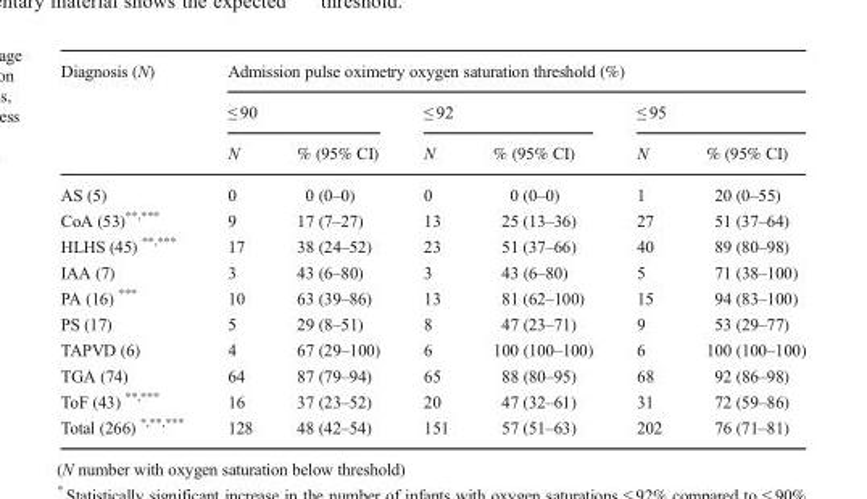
<table><thead><tr><td rowspan="3">Diagnosis (N)</td><td colspan="6">Admission pulse oximetry oxygen saturation threshold (%)</td></tr><tr><td colspan="2">≤ 90</td><td colspan="2">≤ 92</td><td colspan="2">≤ 95</td></tr><tr><td>N</td><td>% (95% CI)</td><td>N</td><td>% (95% CI)</td><td>N</td><td>% (95% CI)</td></tr></thead><tbody><tr><td>AS (5)</td><td>0</td><td>0 (0–0)</td><td>0</td><td>0 (0–0)</td><td>1</td><td>20 (0–55)</td></tr><tr><td>CoA (53)<sup>**,***</sup></td><td>9</td><td>17 (7–27)</td><td>13</td><td>25 (13–36)</td><td>27</td><td>51 (37–64)</td></tr><tr><td>HLHS (45) <sup>**,***</sup></td><td>17</td><td>38 (24–52)</td><td>23</td><td>51 (37–66)</td><td>40</td><td>89 (80–98)</td></tr><tr><td>IAA (7)</td><td>3</td><td>43 (6–80)</td><td>3</td><td>43 (6–80)</td><td>5</td><td>71 (38–100)</td></tr><tr><td>PA (16) ***</td><td>10</td><td>63 (39–86)</td><td>13</td><td>81 (62–100)</td><td>15</td><td>94 (83–100)</td></tr><tr><td>PS (17)</td><td>5</td><td>29 (8–51)</td><td>8</td><td>47 (23–71)</td><td>9</td><td>53 (29–77)</td></tr><tr><td>TAPVD (6)</td><td>4</td><td>67 (29–100)</td><td>6</td><td>100 (100–100)</td><td>6</td><td>100 (100–100)</td></tr><tr><td>TGA (74)</td><td>64</td><td>87 (79–94)</td><td>65</td><td>88 (80–95)</td><td>68</td><td>92 (86–98)</td></tr><tr><td>ToF (43) <sup>**,***</sup></td><td>16</td><td>37 (23–52)</td><td>20</td><td>47 (32–61)</td><td>31</td><td>72 (59–86)</td></tr><tr><td>Total (266) <sup>*,**,***</sup></td><td>128</td><td>48 (42–54)</td><td>151</td><td>57 (51–63)</td><td>202</td><td>76 (71–81)</td></tr></tbody></table>